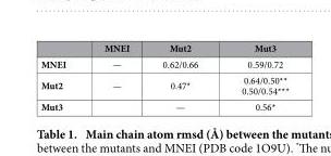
<table><thead><tr><td></td><td>MNEI</td><td>Mut2</td><td>Mut3</td></tr></thead><tbody><tr><td>MNEI</td><td>—</td><td>0.62/0.66</td><td>0.59/0.72</td></tr><tr><td>Mut2</td><td>—</td><td>0.47*</td><td>0.64/0.50** 0.50/0.54***</td></tr><tr><td>Mut3</td><td></td><td>—</td><td>0.56*</td></tr></tbody></table>